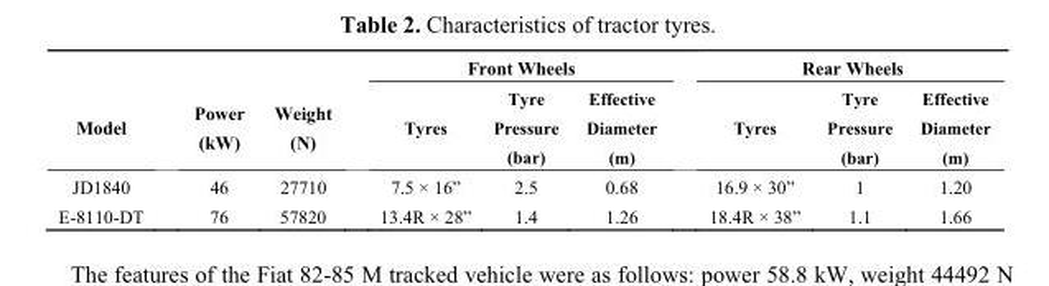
<table><thead><tr><td rowspan="2">Model</td><td rowspan="2">Power (kW)</td><td rowspan="2">Weight (N)</td><td colspan="3">Front Wheels</td><td colspan="3">Rear Wheels</td></tr><tr><td>Tyres</td><td>Tyre Pressure (bar)</td><td>Effective Diameter (m)</td><td>Tyres</td><td>Tyre Pressure (bar)</td><td>Effective Diameter (m)</td></tr></thead><tbody><tr><td>JD1840</td><td>46</td><td>27710</td><td>7.5 × 16”</td><td>2.5</td><td>0.68</td><td>16.9 × 30”</td><td>1</td><td>1.20</td></tr><tr><td>E-8110-DT</td><td>76</td><td>57820</td><td>13.4R × 28”</td><td>1.4</td><td>1.26</td><td>18.4R × 38”</td><td>1.1</td><td>1.66</td></tr></tbody></table>